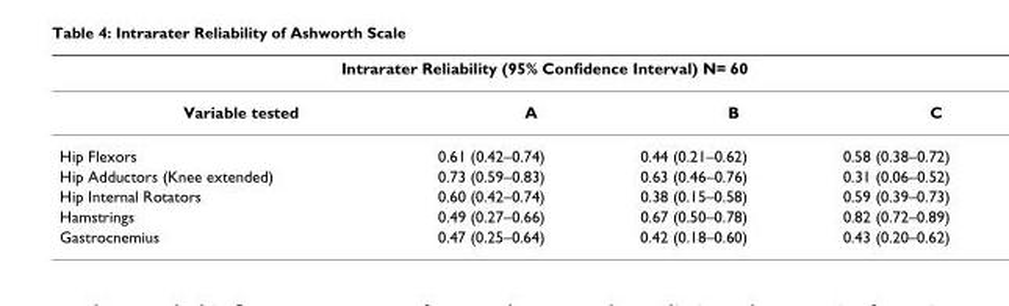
<table><thead><tr><td colspan="4">Intrarater Reliability (95% Confidence Interval) N= 60</td></tr><tr><td>Variable tested</td><td>A</td><td>B</td><td>C</td></tr></thead><tbody><tr><td>Hip Flexors</td><td>0.61 (0.42–0.74)</td><td>0.44 (0.21–0.62)</td><td>0.58 (0.38–0.72)</td></tr><tr><td>Hip Adductors (Knee extended)</td><td>0.73 (0.59–0.83)</td><td>0.63 (0.46–0.76)</td><td>0.31 (0.06–0.52)</td></tr><tr><td>Hip Internal Rotators</td><td>0.60 (0.42–0.74)</td><td>0.38 (0.15–0.58)</td><td>0.59 (0.39–0.73)</td></tr><tr><td>Hamstrings</td><td>0.49 (0.27–0.66)</td><td>0.67 (0.50–0.78)</td><td>0.82 (0.72–0.89)</td></tr><tr><td>Gastrocnemius</td><td>0.47 (0.25–0.64)</td><td>0.42 (0.18–0.60)</td><td>0.43 (0.20–0.62)</td></tr></tbody></table>